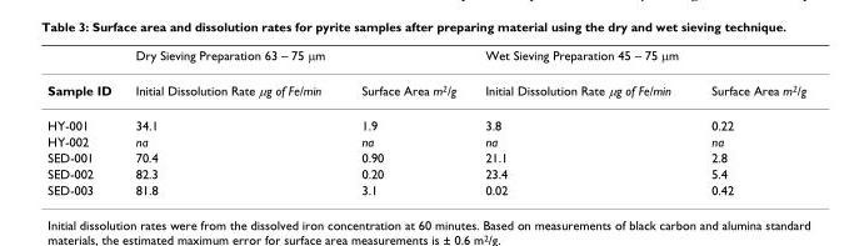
<table><thead><tr><td rowspan="2">Sample ID</td><td colspan="2">Dry Sieving Preparation 63 – 75 μm</td><td colspan="2">Wet Sieving Preparation 45 – 75 μm</td></tr><tr><td>Initial Dissolution Rate μg of Fe/min</td><td>Surface Area m<sup>2</sup>/g</td><td>Initial Dissolution Rate μg of Fe/min</td><td>Surface Area m<sup>2</sup>/g</td></tr></thead><tbody><tr><td>HY-001</td><td>34.1</td><td>1.9</td><td>3.8</td><td>0.22</td></tr><tr><td>HY-002</td><td>na</td><td>na</td><td>na</td><td>na</td></tr><tr><td>SED-001</td><td>70.4</td><td>0.90</td><td>21.1</td><td>2.8</td></tr><tr><td>SED-002</td><td>82.3</td><td>0.20</td><td>23.4</td><td>5.4</td></tr><tr><td>SED-003</td><td>81.8</td><td>3.1</td><td>0.02</td><td>0.42</td></tr></tbody></table>